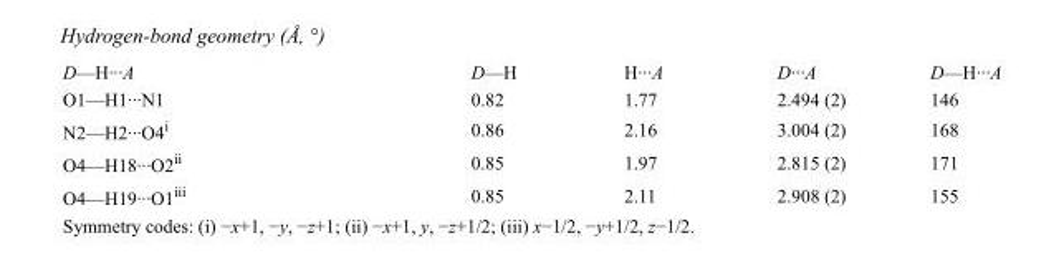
<table><tbody><tr><td>D—H···A</td><td>D—H</td><td>H···A</td><td>D···A</td><td>D—H···A</td></tr><tr><td>O1—H1···N1</td><td>0.82</td><td>1.77</td><td>2.494 (2)</td><td>146</td></tr><tr><td>N2—H2···O4<sup>i</sup></td><td>0.86</td><td>2.16</td><td>3.004 (2)</td><td>168</td></tr><tr><td>O4—H18···O2<sup>ii</sup></td><td>0.85</td><td>1.97</td><td>2.815 (2)</td><td>171</td></tr><tr><td>O4—H19···O1<sup>iii</sup></td><td>0.85</td><td>2.11</td><td>2.908 (2)</td><td>155</td></tr></tbody></table>